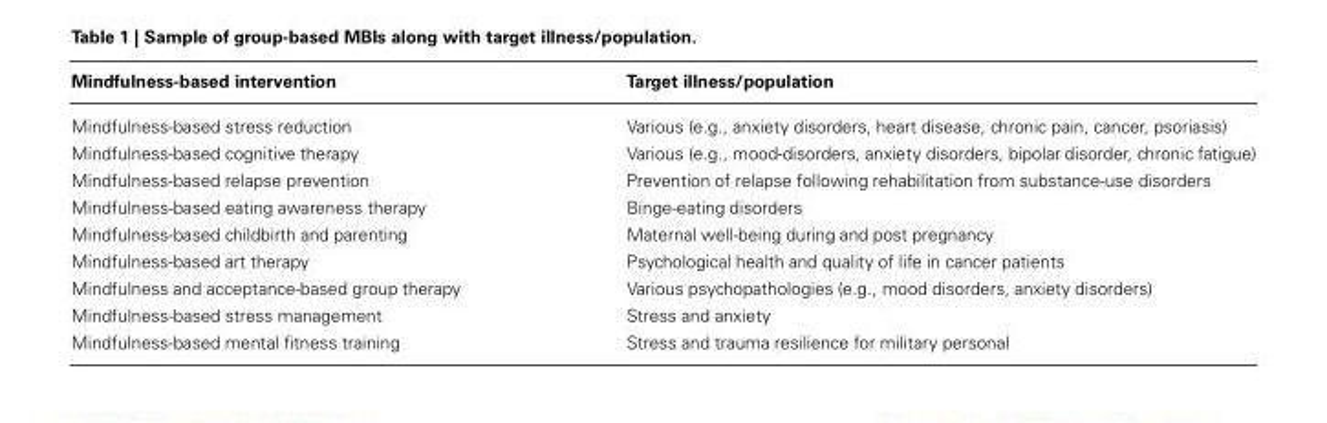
<table><thead><tr><td>Mindfulness-based intervention</td><td>Target illness/population</td></tr></thead><tbody><tr><td>Mindfulness-based stress reduction</td><td>Various (e.g., anxiety disorders, heart disease, chronic pain, cancer, psoriasis)</td></tr><tr><td>Mindfulness-based cognitive therapy</td><td>Various (e.g., mood-disorders, anxiety disorders, bipolar disorder, chronic fatigue)</td></tr><tr><td>Mindfulness-based relapse prevention</td><td>Prevention of relapse following rehabilitation from substance-use disorders</td></tr><tr><td>Mindfulness-based eating awareness therapy</td><td>Binge-eating disorders</td></tr><tr><td>Mindfulness-based childbirth and parenting</td><td>Maternal well-being during and post pregnancy</td></tr><tr><td>Mindfulness-based art therapy</td><td>Psychological health and quality of life in cancer patients</td></tr><tr><td>Mindfulness and acceptance-based group therapy</td><td>Various psychopathologies (e.g., mood disorders, anxiety disorders)</td></tr><tr><td>Mindfulness-based stress management</td><td>Stress and anxiety</td></tr><tr><td>Mindfulness-based mental fitness training</td><td>Stress and trauma resilience for military personal</td></tr></tbody></table>